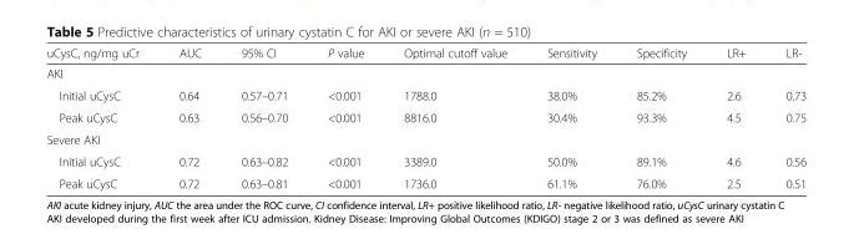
<table><thead><tr><td>uCysC, ng/mg uCr</td><td>AUC</td><td>95% CI</td><td>P value</td><td>Optimal cutoff value</td><td>Sensitivity</td><td>Specificity</td><td>LR+</td><td>LR-</td></tr></thead><tbody><tr><td colspan="9">AKI</td></tr><tr><td>Initial uCysC</td><td>0.64</td><td>0.57–0.71</td><td>&lt;0.001</td><td>1788.0</td><td>38.0%</td><td>85.2%</td><td>2.6</td><td>0.73</td></tr><tr><td>Peak uCysC</td><td>0.63</td><td>0.56–0.70</td><td>&lt;0.001</td><td>8816.0</td><td>30.4%</td><td>93.3%</td><td>4.5</td><td>0.75</td></tr><tr><td colspan="9">Severe AKI</td></tr><tr><td>Initial uCysC</td><td>0.72</td><td>0.63–0.82</td><td>&lt;0.001</td><td>3389.0</td><td>50.0%</td><td>89.1%</td><td>4.6</td><td>0.56</td></tr><tr><td>Peak uCysC</td><td>0.72</td><td>0.63–0.81</td><td>&lt;0.001</td><td>1736.0</td><td>61.1%</td><td>76.0%</td><td>2.5</td><td>0.51</td></tr></tbody></table>